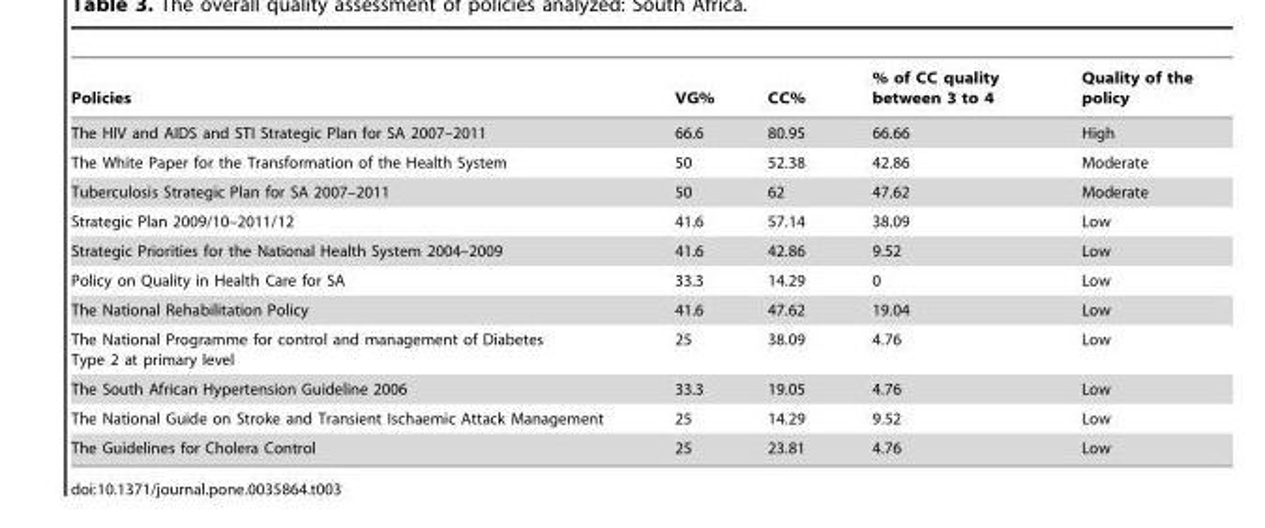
<table><thead><tr><td>Policies</td><td>VG%</td><td>CC%</td><td>% of CC quality between 3 to 4</td><td>Quality of the policy</td></tr></thead><tbody><tr><td>The HIV and AIDS and STI Strategic Plan for SA 2007–2011</td><td>66.6</td><td>80.95</td><td>66.66</td><td>High</td></tr><tr><td>The White Paper for the Transformation of the Health System</td><td>50</td><td>52.38</td><td>42.86</td><td>Moderate</td></tr><tr><td>Tuberculosis Strategic Plan for SA 2007–2011</td><td>50</td><td>62</td><td>47.62</td><td>Moderate</td></tr><tr><td>Strategic Plan 2009/10–2011/12</td><td>41.6</td><td>57.14</td><td>38.09</td><td>Low</td></tr><tr><td>Strategic Priorities for the National Health System 2004–2009</td><td>41.6</td><td>42.86</td><td>9.52</td><td>Low</td></tr><tr><td>Policy on Quality in Health Care for SA</td><td>33.3</td><td>14.29</td><td>0</td><td>Low</td></tr><tr><td>The National Rehabilitation Policy</td><td>41.6</td><td>47.62</td><td>19.04</td><td>Low</td></tr><tr><td>The National Programme for control and management of Diabetes Type 2 at primary level</td><td>25</td><td>38.09</td><td>4.76</td><td>Low</td></tr><tr><td>The South African Hypertension Guideline 2006</td><td>33.3</td><td>19.05</td><td>4.76</td><td>Low</td></tr><tr><td>The National Guide on Stroke and Transient Ischaemic Attack Management</td><td>25</td><td>14.29</td><td>9.52</td><td>Low</td></tr><tr><td>The Guidelines for Cholera Control</td><td>25</td><td>23.81</td><td>4.76</td><td>Low</td></tr></tbody></table>